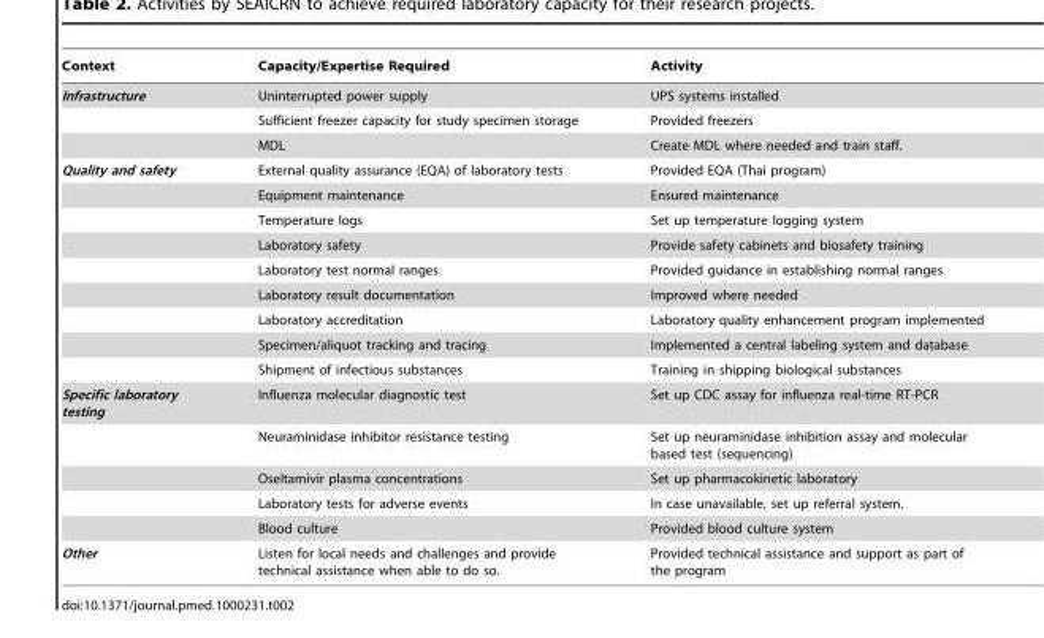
<table><thead><tr><td>Context</td><td>Capacity/Expertise Required</td><td>Activity</td></tr></thead><tbody><tr><td rowspan="3">Infrastructure</td><td>Uninterrupted power supply</td><td>UPS systems installed</td></tr><tr><td>Sufficient freezer capacity for study specimen storage</td><td>Provided freezers</td></tr><tr><td>MDL</td><td>Create MDL where needed and train staff.</td></tr><tr><td rowspan="9">Quality and safety</td><td>External quality assurance (EQA) of laboratory tests</td><td>Provided EQA (Thai program)</td></tr><tr><td>Equipment maintenance</td><td>Ensured maintenance</td></tr><tr><td>Temperature logs</td><td>Set up temperature logging system</td></tr><tr><td>Laboratory safety</td><td>Provide safety cabinets and biosafety training</td></tr><tr><td>Laboratory test normal ranges</td><td>Provided guidance in establishing normal ranges</td></tr><tr><td>Laboratory result documentation</td><td>Improved where needed</td></tr><tr><td>Laboratory accreditation</td><td>Laboratory quality enhancement program implemented</td></tr><tr><td>Specimen/aliquot tracking and tracing</td><td>Implemented a central labeling system and database</td></tr><tr><td>Shipment of infectious substances</td><td>Training in shipping biological substances</td></tr><tr><td rowspan="5">Specific laboratory testing</td><td>Influenza molecular diagnostic test</td><td>Set up CDC assay for influenza real-time RT-PCR</td></tr><tr><td>Neuraminidase inhibitor resistance testing</td><td>Set up neuraminidase inhibition assay and molecular based test (sequencing)</td></tr><tr><td>Oseltamivir plasma concentrations</td><td>Set up pharmacokinetic laboratory</td></tr><tr><td>Laboratory tests for adverse events</td><td>In case unavailable, set up referral system.</td></tr><tr><td>Blood culture</td><td>Provided blood culture system</td></tr><tr><td>Other</td><td>Listen for local needs and challenges and provide technical assistance when able to do so.</td><td>Provided technical assistance and support as part of the program</td></tr></tbody></table>